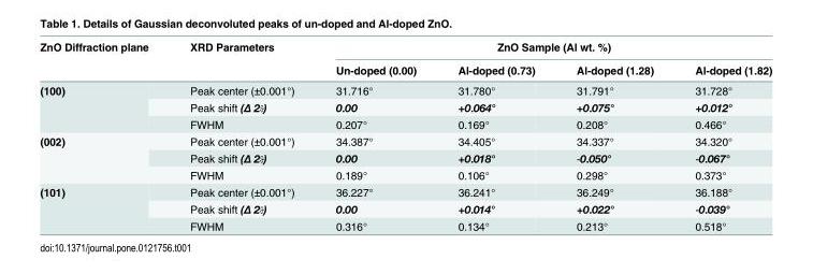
<table><thead><tr><td rowspan="2">ZnO Diffraction plane</td><td rowspan="2">XRD Parameters</td><td colspan="4">ZnO Sample (Al wt. %)</td></tr><tr><td>Un-doped (0.00)</td><td>Al-doped (0.73)</td><td>Al-doped (1.28)</td><td>Al-doped (1.82)</td></tr></thead><tbody><tr><td rowspan="3">(100)</td><td>Peak center (±0.001°)</td><td>31.716°</td><td>31.780°</td><td>31.791°</td><td>31.728°</td></tr><tr><td>Peak shift (Δ 2θ)</td><td>0.00</td><td>+0.064°</td><td>+0.075°</td><td>+0.012°</td></tr><tr><td>FWHM</td><td>0.207°</td><td>0.169°</td><td>0.208°</td><td>0.466°</td></tr><tr><td rowspan="3">(002)</td><td>Peak center (±0.001°)</td><td>34.387°</td><td>34.405°</td><td>34.337°</td><td>34.320°</td></tr><tr><td>Peak shift (Δ 2θ)</td><td>0.00</td><td>+0.018°</td><td>-0.050°</td><td>-0.067°</td></tr><tr><td>FWHM</td><td>0.189°</td><td>0.106°</td><td>0.298°</td><td>0.373°</td></tr><tr><td rowspan="3">(101)</td><td>Peak center (±0.001°)</td><td>36.227°</td><td>36.241°</td><td>36.249°</td><td>36.188°</td></tr><tr><td>Peak shift (Δ 2θ)</td><td>0.00</td><td>+0.014°</td><td>+0.022°</td><td>-0.039°</td></tr><tr><td>FWHM</td><td>0.316°</td><td>0.134°</td><td>0.213°</td><td>0.518°</td></tr></tbody></table>